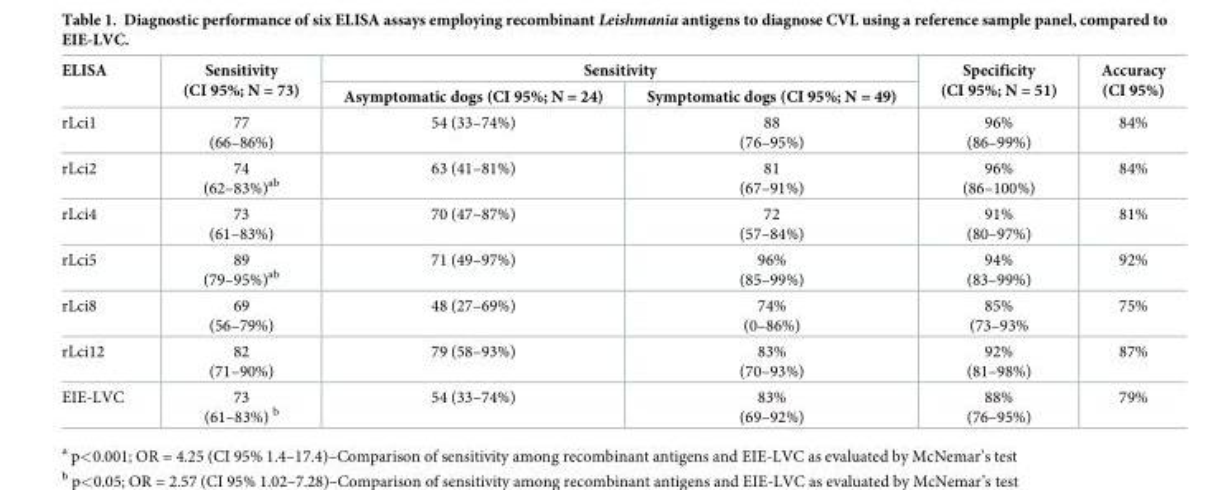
<table><thead><tr><td rowspan="2">ELISA</td><td rowspan="2">Sensitivity (CI 95%; N = 73)</td><td colspan="2">Sensitivity</td><td rowspan="2">Specificity (CI 95%; N = 51)</td><td rowspan="2">Accuracy (CI 95%)</td></tr><tr><td>Asymptomatic dogs (CI 95%; N = 24)</td><td>Symptomatic dogs (CI 95%; N = 49)</td></tr></thead><tbody><tr><td>rLci1</td><td>77 (66–86%)</td><td>54 (33–74%)</td><td>88 (76–95%)</td><td>96% (86–99%)</td><td>84%</td></tr><tr><td>rLci2</td><td>74 (62–83%)<sup>ab</sup></td><td>63 (41–81%)</td><td>81 (67–91%)</td><td>96% (86–100%)</td><td>84%</td></tr><tr><td>rLci4</td><td>73 (61–83%)</td><td>70 (47–87%)</td><td>72 (57–84%)</td><td>91% (80–97%)</td><td>81%</td></tr><tr><td>rLci5</td><td>89 (79–95%)<sup>ab</sup></td><td>71 (49–97%)</td><td>96% (85–99%)</td><td>94% (83–99%)</td><td>92%</td></tr><tr><td>rLci8</td><td>69 (56–79%)</td><td>48 (27–69%)</td><td>74% (0–86%)</td><td>85% (73–93%</td><td>75%</td></tr><tr><td>rLci12</td><td>82 (71–90%)</td><td>79 (58–93%)</td><td>83% (70–93%)</td><td>92% (81–98%)</td><td>87%</td></tr><tr><td>EIE-LVC</td><td>73 (61–83%) <sup>b</sup></td><td>54 (33–74%)</td><td>83% (69–92%)</td><td>88% (76–95%)</td><td>79%</td></tr></tbody></table>